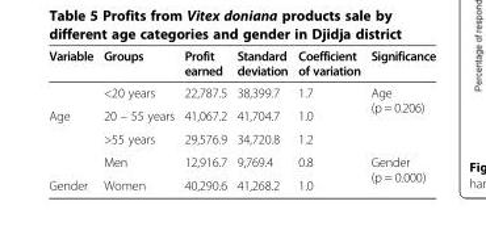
<table><thead><tr><td>Variable</td><td>Groups</td><td>Profit earned</td><td>Standard deviation</td><td>Coefficient of variation</td><td>Significance</td></tr></thead><tbody><tr><td></td><td>&lt;20 years</td><td>22,787.5</td><td>38,399.7</td><td>1.7</td><td rowspan="3">Age (p = 0.206)</td></tr><tr><td rowspan="3">Age</td><td>20 – 55 years</td><td>41,067.2</td><td>41,704.7</td><td>1.0</td></tr><tr><td>&gt;55 years</td><td>29,576.9</td><td>34,720.8</td><td>1.2</td></tr><tr><td>Men</td><td>12,916.7</td><td>9,769.4</td><td>0.8</td><td rowspan="2">Gender (p = 0.000)</td></tr><tr><td>Gender</td><td>Women</td><td>40,290.6</td><td>41,268.2</td><td>1.0</td></tr></tbody></table>